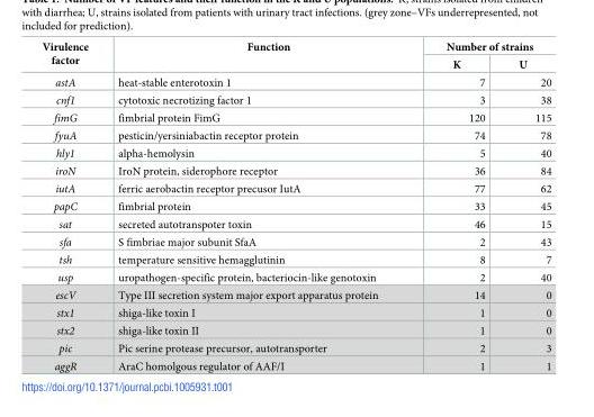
<table><thead><tr><td rowspan="2">Virulence factor</td><td rowspan="2">Function</td><td colspan="2">Number of strains</td></tr><tr><td>K</td><td>U</td></tr></thead><tbody><tr><td>astA</td><td>heat-stable enterotoxin 1</td><td>7</td><td>20</td></tr><tr><td>cnf1</td><td>cytotoxic necrotizing factor 1</td><td>3</td><td>38</td></tr><tr><td>fimG</td><td>fimbrial protein FimG</td><td>120</td><td>115</td></tr><tr><td>fyuA</td><td>pesticin/yersiniabactin receptor protein</td><td>74</td><td>78</td></tr><tr><td>hly1</td><td>alpha-hemolysin</td><td>5</td><td>40</td></tr><tr><td>iroN</td><td>IroN protein, siderophore receptor</td><td>36</td><td>84</td></tr><tr><td>iutA</td><td>ferric aerobactin receptor precusor IutA</td><td>77</td><td>62</td></tr><tr><td>papC</td><td>fimbrial protein</td><td>33</td><td>45</td></tr><tr><td>sat</td><td>secreted autotranspoter toxin</td><td>46</td><td>15</td></tr><tr><td>sfa</td><td>S fimbriae major subunit SfaA</td><td>2</td><td>43</td></tr><tr><td>tsh</td><td>temperature sensitive hemagglutinin</td><td>8</td><td>7</td></tr><tr><td>usp</td><td>uropathogen-specific protein, bacteriocin-like genotoxin</td><td>2</td><td>40</td></tr><tr><td>escV</td><td>Type III secretion system major export apparatus protein</td><td>14</td><td>0</td></tr><tr><td>stx1</td><td>shiga-like toxin I</td><td>1</td><td>0</td></tr><tr><td>stx2</td><td>shiga-like toxin II</td><td>1</td><td>0</td></tr><tr><td>pic</td><td>Pic serine protease precursor, autotransporter</td><td>2</td><td>3</td></tr><tr><td>aggR</td><td>AraC homolgous regulator of AAF/I</td><td>1</td><td>1</td></tr></tbody></table>